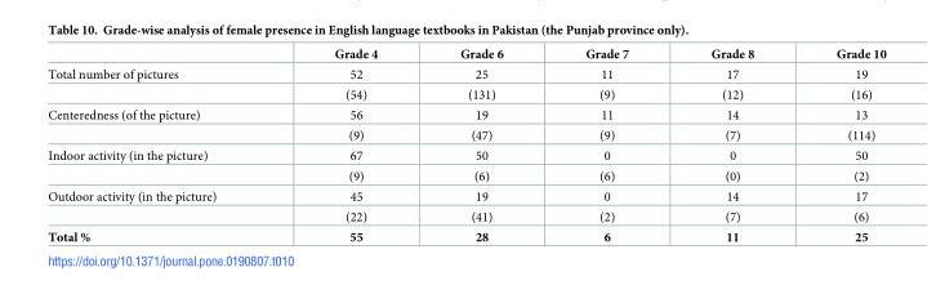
<table><thead><tr><td></td><td>Grade 4</td><td>Grade 6</td><td>Grade 7</td><td>Grade 8</td><td>Grade 10</td></tr></thead><tbody><tr><td rowspan="2">Total number of pictures</td><td>52</td><td>25</td><td>11</td><td>17</td><td>19</td></tr><tr><td>(54)</td><td>(131)</td><td>(9)</td><td>(12)</td><td>(16)</td></tr><tr><td rowspan="2">Centeredness (of the picture)</td><td>56</td><td>19</td><td>11</td><td>14</td><td>13</td></tr><tr><td>(9)</td><td>(47)</td><td>(9)</td><td>(7)</td><td>(114)</td></tr><tr><td rowspan="2">Indoor activity (in the picture)</td><td>67</td><td>50</td><td>0</td><td>0</td><td>50</td></tr><tr><td>(9)</td><td>(6)</td><td>(6)</td><td>(0)</td><td>(2)</td></tr><tr><td rowspan="2">Outdoor activity (in the picture)</td><td>45</td><td>19</td><td>0</td><td>14</td><td>17</td></tr><tr><td>(22)</td><td>(41)</td><td>(2)</td><td>(7)</td><td>(6)</td></tr><tr><td>Total %</td><td>55</td><td>28</td><td>6</td><td>11</td><td>25</td></tr></tbody></table>